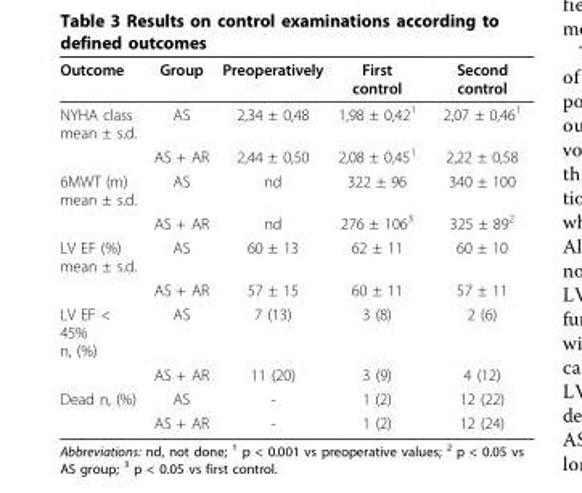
<table><thead><tr><td>Outcome</td><td>Group</td><td>Preoperatively</td><td>First control</td><td>Second control</td></tr></thead><tbody><tr><td rowspan="2">NYHA class mean ± s.d.</td><td>AS</td><td>2,34 ± 0,48</td><td>1,98 ± 0,42<sup>1</sup></td><td>2,07 ± 0,46<sup>1</sup></td></tr><tr><td>AS + AR</td><td>2,44 ± 0,50</td><td>2,08 ± 0,45<sup>1</sup></td><td>2,22 ± 0,58</td></tr><tr><td rowspan="2">6MWT (m) mean ± s.d.</td><td>AS</td><td>nd</td><td>322 ± 96</td><td>340 ± 100</td></tr><tr><td>AS + AR</td><td>nd</td><td>276 ± 106<sup>3</sup></td><td>325 ± 89<sup>2</sup></td></tr><tr><td rowspan="2">LV EF (%) mean ± s.d.</td><td>AS</td><td>60 ± 13</td><td>62 ± 11</td><td>60 ± 10</td></tr><tr><td>AS + AR</td><td>57 ± 15</td><td>60 ± 11</td><td>57 ± 11</td></tr><tr><td rowspan="2">LV EF &lt; 45% n, (%)</td><td>AS</td><td>7 (13)</td><td>3 (8)</td><td>2 (6)</td></tr><tr><td>AS + AR</td><td>11 (20)</td><td>3 (9)</td><td>4 (12)</td></tr><tr><td rowspan="2">Dead n, (%)</td><td>AS</td><td>-</td><td>1 (2)</td><td>12 (22)</td></tr><tr><td>AS + AR</td><td>-</td><td>1 (2)</td><td>12 (24)</td></tr></tbody></table>